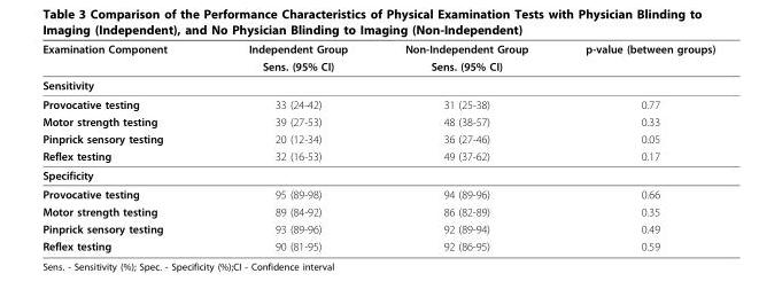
<table><thead><tr><td rowspan="2">Examination Component</td><td rowspan="2">Independent Group Sens. (95% CI)</td><td rowspan="2">Non-Independent Group Sens. (95% CI)</td><td rowspan="2">p-value (between groups)</td></tr><tr></tr></thead><tbody><tr><td colspan="4">Sensitivity</td></tr><tr><td>Provocative testing</td><td>33 (24-42)</td><td>31 (25-38)</td><td>0.77</td></tr><tr><td>Motor strength testing</td><td>39 (27-53)</td><td>48 (38-57)</td><td>0.33</td></tr><tr><td>Pinprick sensory testing</td><td>20 (12-34)</td><td>36 (27-46)</td><td>0.05</td></tr><tr><td>Reflex testing</td><td>32 (16-53)</td><td>49 (37-62)</td><td>0.17</td></tr><tr><td colspan="4">Specificity</td></tr><tr><td>Provocative testing</td><td>95 (89-98)</td><td>94 (89-96)</td><td>0.66</td></tr><tr><td>Motor strength testing</td><td>89 (84-92)</td><td>86 (82-89)</td><td>0.35</td></tr><tr><td>Pinprick sensory testing</td><td>93 (89-96)</td><td>92 (89-94)</td><td>0.49</td></tr><tr><td>Reflex testing</td><td>90 (81-95)</td><td>92 (86-95)</td><td>0.59</td></tr></tbody></table>